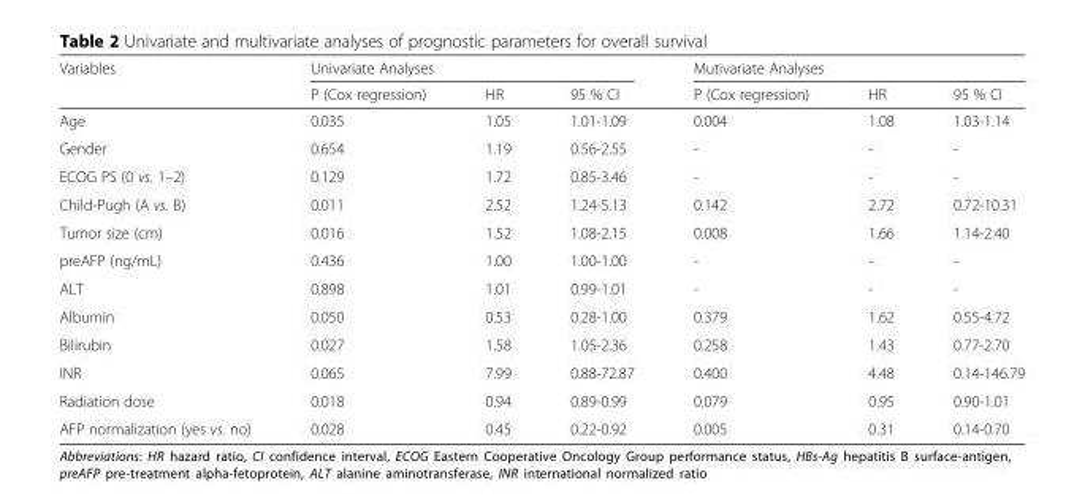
<table><thead><tr><td rowspan="2">Variables</td><td colspan="3">Univariate Analyses</td><td colspan="3">Mutivariate Analyses</td></tr><tr><td>P (Cox regression)</td><td>HR</td><td>95 % CI</td><td>P (Cox regression)</td><td>HR</td><td>95 % CI</td></tr></thead><tbody><tr><td>Age</td><td>0.035</td><td>1.05</td><td>1.01-1.09</td><td>0.004</td><td>1.08</td><td>1.03-1.14</td></tr><tr><td>Gender</td><td>0.654</td><td>1.19</td><td>0.56-2.55</td><td>-</td><td>-</td><td>-</td></tr><tr><td>ECOG PS (0 vs. 1–2)</td><td>0.129</td><td>1.72</td><td>0.85-3.46</td><td>-</td><td>-</td><td>-</td></tr><tr><td>Child-Pugh (A vs. B)</td><td>0.011</td><td>2.52</td><td>1.24-5.13</td><td>0.142</td><td>2.72</td><td>0.72-10.31</td></tr><tr><td>Tumor size (cm)</td><td>0.016</td><td>1.52</td><td>1.08-2.15</td><td>0.008</td><td>1.66</td><td>1.14-2.40</td></tr><tr><td>preAFP (ng/mL)</td><td>0.436</td><td>1.00</td><td>1.00-1.00</td><td>-</td><td>-</td><td>-</td></tr><tr><td>ALT</td><td>0.898</td><td>1.01</td><td>0.99-1.01</td><td>-</td><td>-</td><td>-</td></tr><tr><td>Albumin</td><td>0.050</td><td>0.53</td><td>0.28-1.00</td><td>0.379</td><td>1.62</td><td>0.55-4.72</td></tr><tr><td>Bilirubin</td><td>0.027</td><td>1.58</td><td>1.05-2.36</td><td>0.258</td><td>1.43</td><td>0.77-2.70</td></tr><tr><td>INR</td><td>0.065</td><td>7.99</td><td>0.88-72.87</td><td>0.400</td><td>4.48</td><td>0.14-146.79</td></tr><tr><td>Radiation dose</td><td>0.018</td><td>0.94</td><td>0.89-0.99</td><td>0.079</td><td>0.95</td><td>0.90-1.01</td></tr><tr><td>AFP normalization (yes vs. no)</td><td>0.028</td><td>0.45</td><td>0.22-0.92</td><td>0.005</td><td>0.31</td><td>0.14-0.70</td></tr></tbody></table>